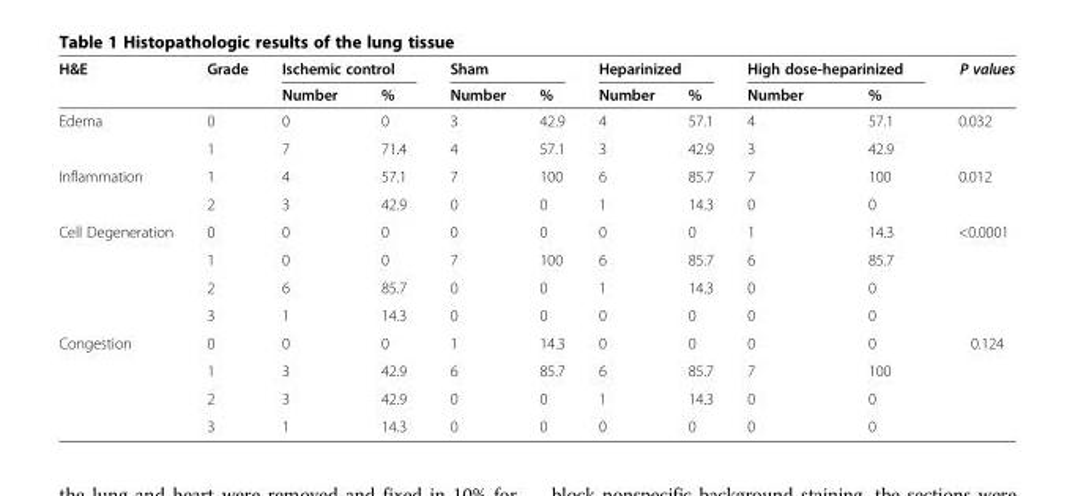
<table><thead><tr><td rowspan="2">H&amp;E</td><td rowspan="2">Grade</td><td colspan="2">Ischemic control</td><td colspan="2">Sham</td><td colspan="2">Heparinized</td><td colspan="2">High dose-heparinized</td><td rowspan="2">P values</td></tr><tr><td>Number</td><td>%</td><td>Number</td><td>%</td><td>Number</td><td>%</td><td>Number</td><td>%</td></tr></thead><tbody><tr><td rowspan="2">Edema</td><td>0</td><td>0</td><td>0</td><td>3</td><td>42.9</td><td>4</td><td>57.1</td><td>4</td><td>57.1</td><td rowspan="2">0.032</td></tr><tr><td>1</td><td>7</td><td>71.4</td><td>4</td><td>57.1</td><td>3</td><td>42.9</td><td>3</td><td>42.9</td></tr><tr><td rowspan="2">Inflammation</td><td>1</td><td>4</td><td>57.1</td><td>7</td><td>100</td><td>6</td><td>85.7</td><td>7</td><td>100</td><td rowspan="2">0.012</td></tr><tr><td>2</td><td>3</td><td>42.9</td><td>0</td><td>0</td><td>1</td><td>14.3</td><td>0</td><td>0</td></tr><tr><td rowspan="4">Cell Degeneration</td><td>0</td><td>0</td><td>0</td><td>0</td><td>0</td><td>0</td><td>0</td><td>1</td><td>14.3</td><td rowspan="4">&lt;0.0001</td></tr><tr><td>1</td><td>0</td><td>0</td><td>7</td><td>100</td><td>6</td><td>85.7</td><td>6</td><td>85.7</td></tr><tr><td>2</td><td>6</td><td>85.7</td><td>0</td><td>0</td><td>1</td><td>14.3</td><td>0</td><td>0</td></tr><tr><td>3</td><td>1</td><td>14.3</td><td>0</td><td>0</td><td>0</td><td>0</td><td>0</td><td>0</td></tr><tr><td rowspan="4">Congestion</td><td>0</td><td>0</td><td>0</td><td>1</td><td>14.3</td><td>0</td><td>0</td><td>0</td><td>0</td><td rowspan="4">0.124</td></tr><tr><td>1</td><td>3</td><td>42.9</td><td>6</td><td>85.7</td><td>6</td><td>85.7</td><td>7</td><td>100</td></tr><tr><td>2</td><td>3</td><td>42.9</td><td>0</td><td>0</td><td>1</td><td>14.3</td><td>0</td><td>0</td></tr><tr><td>3</td><td>1</td><td>14.3</td><td>0</td><td>0</td><td>0</td><td>0</td><td>0</td><td>0</td></tr></tbody></table>